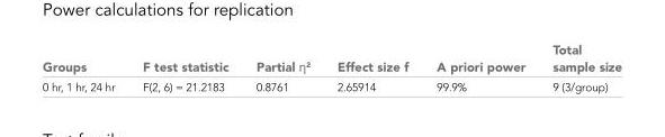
<table><thead><tr><td>Groups</td><td>F test statistic</td><td>Partial η<sup>2</sup></td><td>Effect size f</td><td>A priori power</td><td>Total sample size</td></tr></thead><tbody><tr><td>0 hr, 1 hr, 24 hr</td><td>F(2, 6) = 21.2183</td><td>0.8761</td><td>2.65914</td><td>99.9%</td><td>9 (3/group)</td></tr></tbody></table>